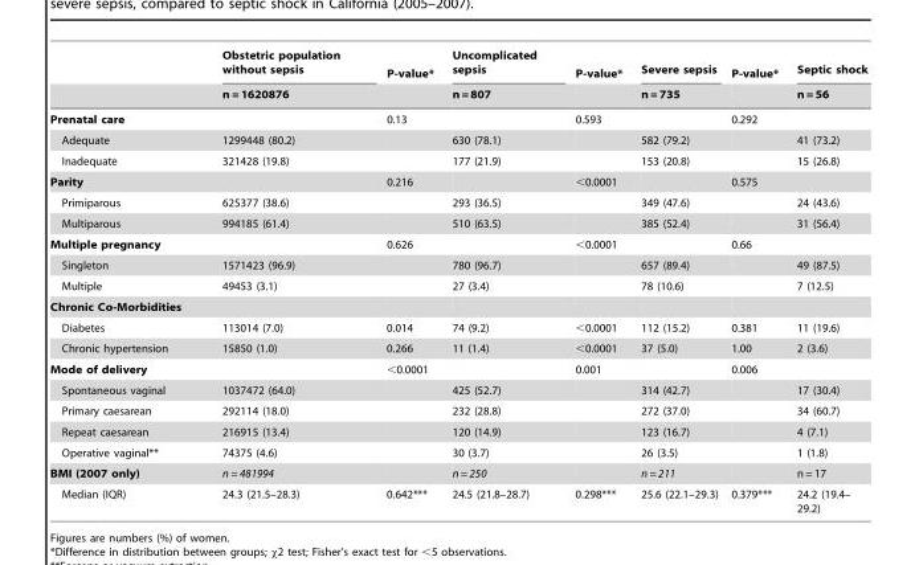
<table><thead><tr><td rowspan="2"></td><td rowspan="2">Obstetric population without sepsis n = 1620876</td><td rowspan="2">P-value*</td><td rowspan="2">Uncomplicated sepsis n = 807</td><td rowspan="2">P-value*</td><td rowspan="2">Severe sepsis n = 735</td><td rowspan="2">P-value*</td><td rowspan="2">Septic shock n = 56</td></tr><tr></tr></thead><tbody><tr><td>Prenatal care</td><td></td><td>0.13</td><td></td><td>0.593</td><td></td><td>0.292</td><td></td></tr><tr><td>Adequate</td><td>1299448 (80.2)</td><td></td><td>630 (78.1)</td><td></td><td>582 (79.2)</td><td></td><td>41 (73.2)</td></tr><tr><td>Inadequate</td><td>321428 (19.8)</td><td></td><td>177 (21.9)</td><td></td><td>153 (20.8)</td><td></td><td>15 (26.8)</td></tr><tr><td>Parity</td><td></td><td>0.216</td><td></td><td>&lt;0.0001</td><td></td><td>0.575</td><td></td></tr><tr><td>Primiparous</td><td>625377 (38.6)</td><td></td><td>293 (36.5)</td><td></td><td>349 (47.6)</td><td></td><td>24 (43.6)</td></tr><tr><td>Multiparous</td><td>994185 (61.4)</td><td></td><td>510 (63.5)</td><td></td><td>385 (52.4)</td><td></td><td>31 (56.4)</td></tr><tr><td>Multiple pregnancy</td><td></td><td>0.626</td><td></td><td>&lt;0.0001</td><td></td><td>0.66</td><td></td></tr><tr><td>Singleton</td><td>1571423 (96.9)</td><td></td><td>780 (96.7)</td><td></td><td>657 (89.4)</td><td></td><td>49 (87.5)</td></tr><tr><td>Multiple</td><td>49453 (3.1)</td><td></td><td>27 (3.4)</td><td></td><td>78 (10.6)</td><td></td><td>7 (12.5)</td></tr><tr><td colspan="8">Chronic Co-Morbidities</td></tr><tr><td>Diabetes</td><td>113014 (7.0)</td><td>0.014</td><td>74 (9.2)</td><td>&lt;0.0001</td><td>112 (15.2)</td><td>0.381</td><td>11 (19.6)</td></tr><tr><td>Chronic hypertension</td><td>15850 (1.0)</td><td>0.266</td><td>11 (1.4)</td><td>&lt;0.0001</td><td>37 (5.0)</td><td>1.00</td><td>2 (3.6)</td></tr><tr><td>Mode of delivery</td><td></td><td>&lt;0.0001</td><td></td><td>0.001</td><td></td><td>0.006</td><td></td></tr><tr><td>Spontaneous vaginal</td><td>1037472 (64.0)</td><td></td><td>425 (52.7)</td><td></td><td>314 (42.7)</td><td></td><td>17 (30.4)</td></tr><tr><td>Primary caesarean</td><td>292114 (18.0)</td><td></td><td>232 (28.8)</td><td></td><td>272 (37.0)</td><td></td><td>34 (60.7)</td></tr><tr><td>Repeat caesarean</td><td>216915 (13.4)</td><td></td><td>120 (14.9)</td><td></td><td>123 (16.7)</td><td></td><td>4 (7.1)</td></tr><tr><td>Operative vaginal**</td><td>74375 (4.6)</td><td></td><td>30 (3.7)</td><td></td><td>26 (3.5)</td><td></td><td>1 (1.8)</td></tr><tr><td>BMI (2007 only)</td><td>n = 481994</td><td></td><td>n = 250</td><td></td><td>n = 211</td><td></td><td>n = 17</td></tr><tr><td>Median (IQR)</td><td>24.3 (21.5–28.3)</td><td>0.642***</td><td>24.5 (21.8–28.7)</td><td>0.298***</td><td>25.6 (22.1–29.3)</td><td>0.379***</td><td>24.2 (19.4– 29.2)</td></tr></tbody></table>